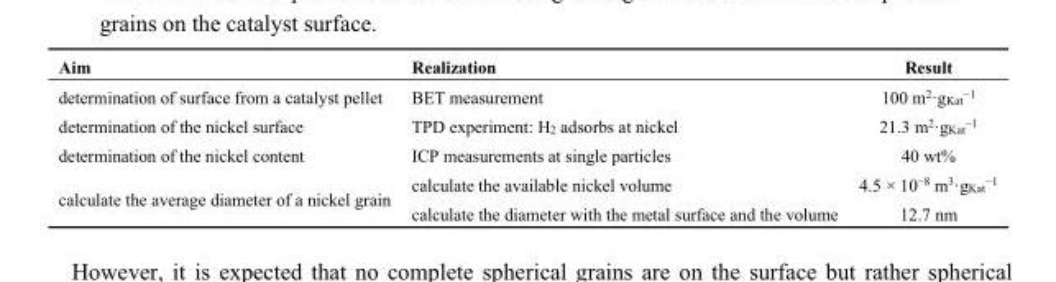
<table><thead><tr><td>Aim</td><td>Realization</td><td>Result</td></tr></thead><tbody><tr><td>determination of surface from a catalyst pellet</td><td>BET measurement</td><td>100 m<sup>2</sup>·g<sub>Kat</sub><sup>−1</sup></td></tr><tr><td>determination of the nickel surface</td><td>TPD experiment: H<sub>2</sub> adsorbs at nickel</td><td>21.3 m<sup>2</sup>·g<sub>Kat</sub><sup>−1</sup></td></tr><tr><td>determination of the nickel content</td><td>ICP measurements at single particles</td><td>40 wt%</td></tr><tr><td rowspan="2">calculate the average diameter of a nickel grain</td><td>calculate the available nickel volume</td><td>4.5 × 10<sup>−8</sup> m<sup>3</sup>·g<sub>Kat</sub><sup>−1</sup></td></tr><tr><td>calculate the diameter with the metal surface and the volume</td><td>12.7 nm</td></tr></tbody></table>